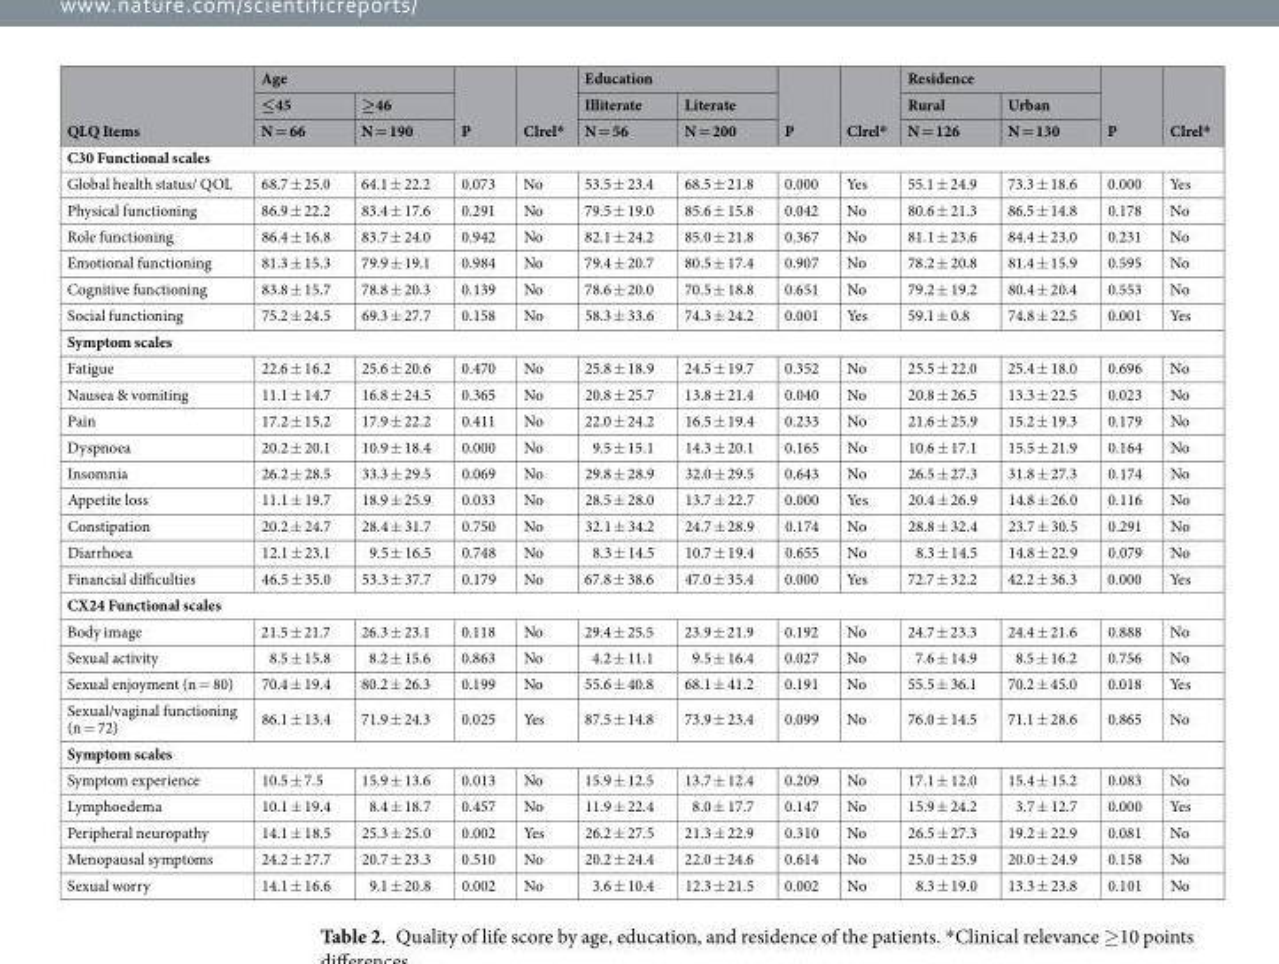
<table><thead><tr><td rowspan="3">QLQ Items</td><td colspan="2">Age</td><td rowspan="3">P</td><td rowspan="3">Clrel*</td><td colspan="2">Education</td><td rowspan="3">P</td><td rowspan="3">Clrel*</td><td colspan="2">Residence</td><td rowspan="3">P</td><td rowspan="3">Clrel*</td></tr><tr><td rowspan="2">≤45 N = 66</td><td rowspan="2">≥46 N = 190</td><td rowspan="2">Illiterate N = 56</td><td rowspan="2">Literate N = 200</td><td rowspan="2">Rural N = 126</td><td rowspan="2">Urban N = 130</td></tr><tr></tr></thead><tbody><tr><td colspan="13">C30 Functional scales</td></tr><tr><td>Global health status/ QOL</td><td>68.7 ± 25.0</td><td>64.1 ± 22.2</td><td>0.073</td><td>No</td><td>53.5 ± 23.4</td><td>68.5 ± 21.8</td><td>0.000</td><td>Yes</td><td>55.1 ± 24.9</td><td>73.3 ± 18.6</td><td>0.000</td><td>Yes</td></tr><tr><td>Physical functioning</td><td>86.9 ± 22.2</td><td>83.4 ± 17.6</td><td>0.291</td><td>No</td><td>79.5 ± 19.0</td><td>85.6 ± 15.8</td><td>0.042</td><td>No</td><td>80.6 ± 21.3</td><td>86.5 ± 14.8</td><td>0.178</td><td>No</td></tr><tr><td>Role functioning</td><td>86.4 ± 16.8</td><td>83.7 ± 24.0</td><td>0.942</td><td>No</td><td>82.1 ± 24.2</td><td>85.0 ± 21.8</td><td>0.367</td><td>No</td><td>81.1 ± 23.6</td><td>84.4 ± 23.0</td><td>0.231</td><td>No</td></tr><tr><td>Emotional functioning</td><td>81.3 ± 15.3</td><td>79.9 ± 19.1</td><td>0.984</td><td>No</td><td>79.4 ± 20.7</td><td>80.5 ± 17.4</td><td>0.907</td><td>No</td><td>78.2 ± 20.8</td><td>81.4 ± 15.9</td><td>0.595</td><td>No</td></tr><tr><td>Cognitive functioning</td><td>83.8 ± 15.7</td><td>78.8 ± 20.3</td><td>0.139</td><td>No</td><td>78.6 ± 20.0</td><td>70.5 ± 18.8</td><td>0.651</td><td>No</td><td>79.2 ± 19.2</td><td>80.4 ± 20.4</td><td>0.553</td><td>No</td></tr><tr><td>Social functioning</td><td>75.2 ± 24.5</td><td>69.3 ± 27.7</td><td>0.158</td><td>No</td><td>58.3 ± 33.6</td><td>74.3 ± 24.2</td><td>0.001</td><td>Yes</td><td>59.1 ± 0.8</td><td>74.8 ± 22.5</td><td>0.001</td><td>Yes</td></tr><tr><td colspan="13">Symptom scales</td></tr><tr><td>Fatigue</td><td>22.6 ± 16.2</td><td>25.6 ± 20.6</td><td>0.470</td><td>No</td><td>25.8 ± 18.9</td><td>24.5 ± 19.7</td><td>0.352</td><td>No</td><td>25.5 ± 22.0</td><td>25.4 ± 18.0</td><td>0.696</td><td>No</td></tr><tr><td>Nausea &amp; vomiting</td><td>11.1 ± 14.7</td><td>16.8 ± 24.5</td><td>0.365</td><td>No</td><td>20.8 ± 25.7</td><td>13.8 ± 21.4</td><td>0.040</td><td>No</td><td>20.8 ± 26.5</td><td>13.3 ± 22.5</td><td>0.023</td><td>No</td></tr><tr><td>Pain</td><td>17.2 ± 15.2</td><td>17.9 ± 22.2</td><td>0.411</td><td>No</td><td>22.0 ± 24.2</td><td>16.5 ± 19.4</td><td>0.233</td><td>No</td><td>21.6 ± 25.9</td><td>15.2 ± 19.3</td><td>0.179</td><td>No</td></tr><tr><td>Dyspnoea</td><td>20.2 ± 20.1</td><td>10.9 ± 18.4</td><td>0.000</td><td>No</td><td>9.5 ± 15.1</td><td>14.3 ± 20.1</td><td>0.165</td><td>No</td><td>10.6 ± 17.1</td><td>15.5 ± 21.9</td><td>0.164</td><td>No</td></tr><tr><td>Insomnia</td><td>26.2 ± 28.5</td><td>33.3 ± 29.5</td><td>0.069</td><td>No</td><td>29.8 ± 28.9</td><td>32.0 ± 29.5</td><td>0.643</td><td>No</td><td>26.5 ± 27.3</td><td>31.8 ± 27.3</td><td>0.174</td><td>No</td></tr><tr><td>Appetite loss</td><td>11.1 ± 19.7</td><td>18.9 ± 25.9</td><td>0.033</td><td>No</td><td>28.5 ± 28.0</td><td>13.7 ± 22.7</td><td>0.000</td><td>Yes</td><td>20.4 ± 26.9</td><td>14.8 ± 26.0</td><td>0.116</td><td>No</td></tr><tr><td>Constipation</td><td>20.2 ± 24.7</td><td>28.4 ± 31.7</td><td>0.750</td><td>No</td><td>32.1 ± 34.2</td><td>24.7 ± 28.9</td><td>0.174</td><td>No</td><td>28.8 ± 32.4</td><td>23.7 ± 30.5</td><td>0.291</td><td>No</td></tr><tr><td>Diarrhoea</td><td>12.1 ± 23.1</td><td>9.5 ± 16.5</td><td>0.748</td><td>No</td><td>8.3 ± 14.5</td><td>10.7 ± 19.4</td><td>0.655</td><td>No</td><td>8.3 ± 14.5</td><td>14.8 ± 22.9</td><td>0.079</td><td>No</td></tr><tr><td>Financial difficulties</td><td>46.5 ± 35.0</td><td>53.3 ± 37.7</td><td>0.179</td><td>No</td><td>67.8 ± 38.6</td><td>47.0 ± 35.4</td><td>0.000</td><td>Yes</td><td>72.7 ± 32.2</td><td>42.2 ± 36.3</td><td>0.000</td><td>Yes</td></tr><tr><td colspan="13">CX24 Functional scales</td></tr><tr><td>Body image</td><td>21.5 ± 21.7</td><td>26.3 ± 23.1</td><td>0.118</td><td>No</td><td>29.4 ± 25.5</td><td>23.9 ± 21.9</td><td>0.192</td><td>No</td><td>24.7 ± 23.3</td><td>24.4 ± 21.6</td><td>0.888</td><td>No</td></tr><tr><td>Sexual activity</td><td>8.5 ± 15.8</td><td>8.2 ± 15.6</td><td>0.863</td><td>No</td><td>4.2 ± 11.1</td><td>9.5 ± 16.4</td><td>0.027</td><td>No</td><td>7.6 ± 14.9</td><td>8.5 ± 16.2</td><td>0.756</td><td>No</td></tr><tr><td>Sexual enjoyment (n = 80)</td><td>70.4 ± 19.4</td><td>80.2 ± 26.3</td><td>0.199</td><td>No</td><td>55.6 ± 40.8</td><td>68.1 ± 41.2</td><td>0.191</td><td>No</td><td>55.5 ± 36.1</td><td>70.2 ± 45.0</td><td>0.018</td><td>Yes</td></tr><tr><td>Sexual/vaginal functioning (n = 72)</td><td>86.1 ± 13.4</td><td>71.9 ± 24.3</td><td>0.025</td><td>Yes</td><td>87.5 ± 14.8</td><td>73.9 ± 23.4</td><td>0.099</td><td>No</td><td>76.0 ± 14.5</td><td>71.1 ± 28.6</td><td>0.865</td><td>No</td></tr><tr><td colspan="13">Symptom scales</td></tr><tr><td>Symptom experience</td><td>10.5 ± 7.5</td><td>15.9 ± 13.6</td><td>0.013</td><td>No</td><td>15.9 ± 12.5</td><td>13.7 ± 12.4</td><td>0.209</td><td>No</td><td>17.1 ± 12.0</td><td>15.4 ± 15.2</td><td>0.083</td><td>No</td></tr><tr><td>Lymphoedema</td><td>10.1 ± 19.4</td><td>8.4 ± 18.7</td><td>0.457</td><td>No</td><td>11.9 ± 22.4</td><td>8.0 ± 17.7</td><td>0.147</td><td>No</td><td>15.9 ± 24.2</td><td>3.7 ± 12.7</td><td>0.000</td><td>Yes</td></tr><tr><td>Peripheral neuropathy</td><td>14.1 ± 18.5</td><td>25.3 ± 25.0</td><td>0.002</td><td>Yes</td><td>26.2 ± 27.5</td><td>21.3 ± 22.9</td><td>0.310</td><td>No</td><td>26.5 ± 27.3</td><td>19.2 ± 22.9</td><td>0.081</td><td>No</td></tr><tr><td>Menopausal symptoms</td><td>24.2 ± 27.7</td><td>20.7 ± 23.3</td><td>0.510</td><td>No</td><td>20.2 ± 24.4</td><td>22.0 ± 24.6</td><td>0.614</td><td>No</td><td>25.0 ± 25.9</td><td>20.0 ± 24.9</td><td>0.158</td><td>No</td></tr><tr><td>Sexual worry</td><td>14.1 ± 16.6</td><td>9.1 ± 20.8</td><td>0.002</td><td>No</td><td>3.6 ± 10.4</td><td>12.3 ± 21.5</td><td>0.002</td><td>No</td><td>8.3 ± 19.0</td><td>13.3 ± 23.8</td><td>0.101</td><td>No</td></tr></tbody></table>